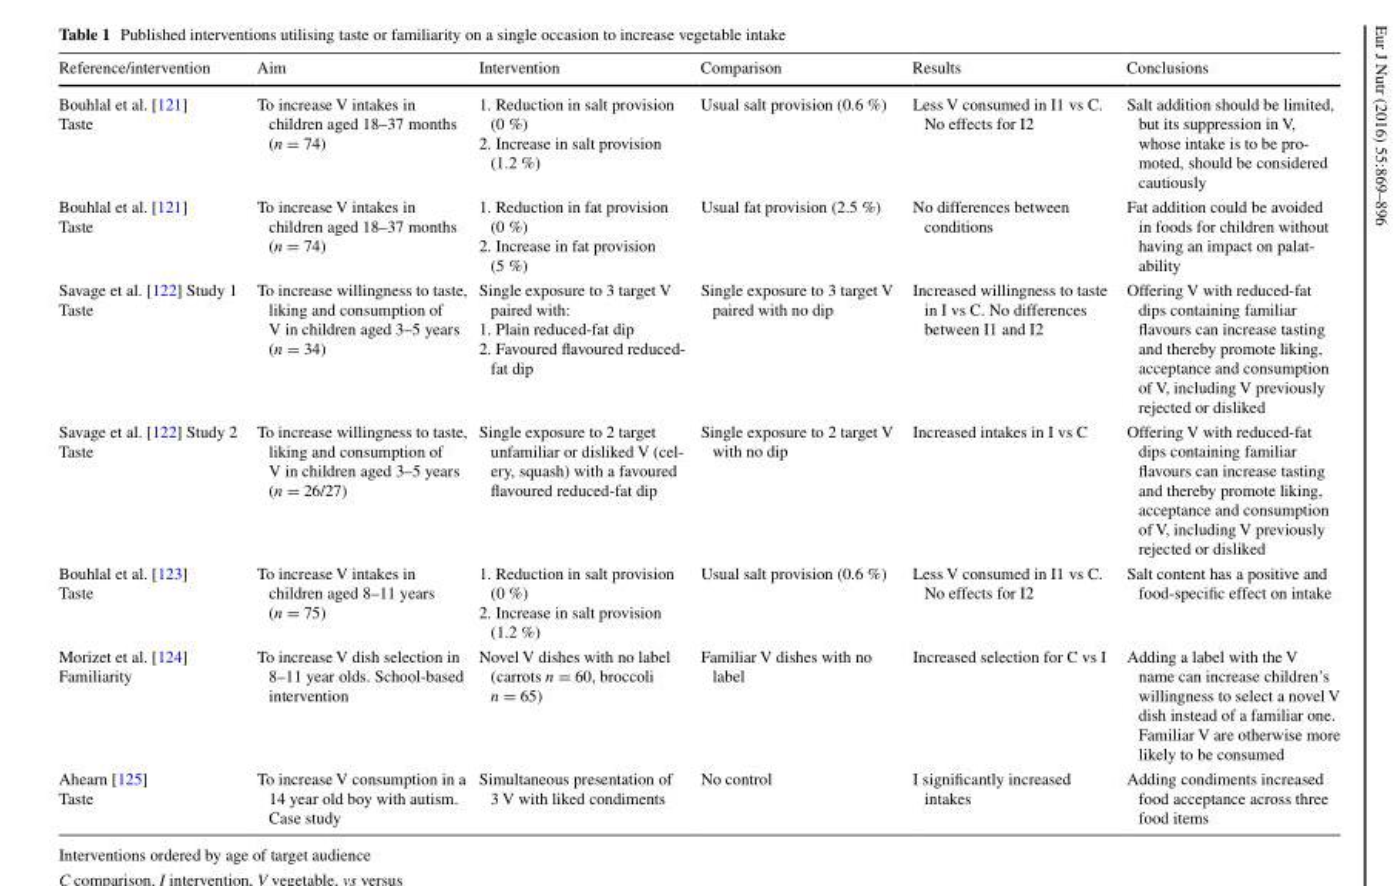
<table><thead><tr><td>Reference/intervention</td><td>Aim</td><td>Intervention</td><td>Comparison</td><td>Results</td><td>Conclusions</td></tr></thead><tbody><tr><td>Bouhlal et al. [121] Taste</td><td>To increase V intakes in children aged 18–37 months (n = 74)</td><td>1. Reduction in salt provision (0 %) 2. Increase in salt provision (1.2 %)</td><td>Usual salt provision (0.6 %)</td><td>Less V consumed in I1 vs C. No effects for I2</td><td>Salt addition should be limited, but its suppression in V, whose intake is to be pro- moted, should be considered cautiously</td></tr><tr><td>Bouhlal et al. [121] Taste</td><td>To increase V intakes in children aged 18–37 months (n = 74)</td><td>1. Reduction in fat provision (0 %) 2. Increase in fat provision (5 %)</td><td>Usual fat provision (2.5 %)</td><td>No differences between conditions</td><td>Fat addition could be avoided in foods for children without having an impact on palat- ability</td></tr><tr><td>Savage et al. [122] Study 1 Taste</td><td>To increase willingness to taste, liking and consumption of V in children aged 3–5 years (n = 34)</td><td>Single exposure to 3 target V paired with: 1. Plain reduced-fat dip 2. Favoured flavoured reduced- fat dip</td><td>Single exposure to 3 target V paired with no dip</td><td>Increased willingness to taste in I vs C. No differences between I1 and I2</td><td>Offering V with reduced-fat dips containing familiar flavours can increase tasting and thereby promote liking, acceptance and consumption of V, including V previously rejected or disliked</td></tr><tr><td>Savage et al. [122] Study 2 Taste</td><td>To increase willingness to taste, liking and consumption of V in children aged 3–5 years (n = 26/27)</td><td>Single exposure to 2 target unfamiliar or disliked V (cel- ery, squash) with a favoured flavoured reduced-fat dip</td><td>Single exposure to 2 target V with no dip</td><td>Increased intakes in I vs C</td><td>Offering V with reduced-fat dips containing familiar flavours can increase tasting and thereby promote liking, acceptance and consumption of V, including V previously rejected or disliked</td></tr><tr><td>Bouhlal et al. [123] Taste</td><td>To increase V intakes in children aged 8–11 years (n = 75)</td><td>1. Reduction in salt provision (0 %) 2. Increase in salt provision (1.2 %)</td><td>Usual salt provision (0.6 %)</td><td>Less V consumed in I1 vs C. No effects for I2</td><td>Salt content has a positive and food-specific effect on intake</td></tr><tr><td>Morizet et al. [124] Familiarity</td><td>To increase V dish selection in 8–11 year olds. School-based intervention</td><td>Novel V dishes with no label (carrots n = 60, broccoli n = 65)</td><td>Familiar V dishes with no label</td><td>Increased selection for C vs I</td><td>Adding a label with the V name can increase children’s willingness to select a novel V dish instead of a familiar one. Familiar V are otherwise more likely to be consumed</td></tr><tr><td>Ahearn [125] Taste</td><td>To increase V consumption in a 14 year old boy with autism. Case study</td><td>Simultaneous presentation of 3 V with liked condiments</td><td>No control</td><td>I significantly increased intakes</td><td>Adding condiments increased food acceptance across three food items</td></tr></tbody></table>